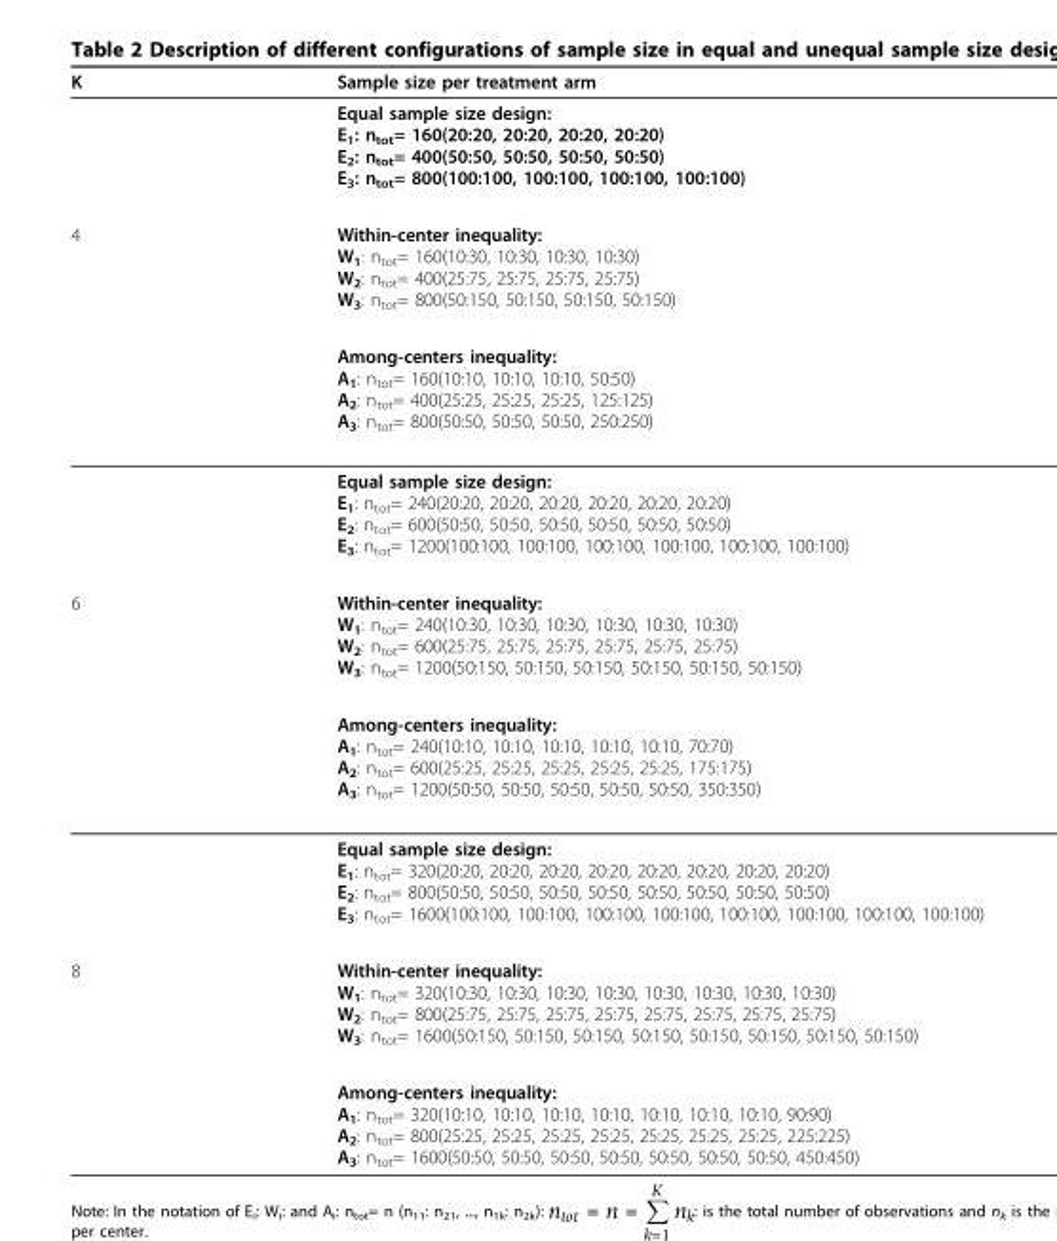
<table><thead><tr><td>K</td><td>Sample size per treatment arm</td></tr></thead><tbody><tr><td></td><td>Equal sample size design: E<sub>1</sub>: n<sub>tot</sub>= 160(20:20, 20:20, 20:20, 20:20) E<sub>2</sub>: n<sub>tot</sub>= 400(50:50, 50:50, 50:50, 50:50) E<sub>3</sub>: n<sub>tot</sub>= 800(100:100, 100:100, 100:100, 100:100)</td></tr><tr><td rowspan="3">4</td><td>Within-center inequality: W<sub>1</sub>: n<sub>tot</sub>= 160(10:30, 10:30, 10:30, 10:30) W<sub>2</sub>: n<sub>tot</sub>= 400(25:75, 25:75, 25:75, 25:75) W<sub>3</sub>: n<sub>tot</sub>= 800(50:150, 50:150, 50:150, 50:150)</td></tr><tr><td>Among-centers inequality: A<sub>1</sub>: n<sub>tot</sub>= 160(10:10, 10:10, 10:10, 50:50) A<sub>2</sub>: n<sub>tot</sub>= 400(25:25, 25:25, 25:25, 125:125) A<sub>3</sub>: n<sub>tot</sub>= 800(50:50, 50:50, 50:50, 250:250)</td></tr><tr><td>Equal sample size design: E<sub>1</sub>: n<sub>tot</sub>= 240(20:20, 20:20, 20:20, 20:20, 20:20, 20:20) E<sub>2</sub>: n<sub>tot</sub>= 600(50:50, 50:50, 50:50, 50:50, 50:50, 50:50) E<sub>3</sub>: n<sub>tot</sub>= 1200(100:100, 100:100, 100:100, 100:100, 100:100, 100:100)</td></tr><tr><td rowspan="3">6</td><td>Within-center inequality: W<sub>1</sub>: n<sub>tot</sub>= 240(10:30, 10:30, 10:30, 10:30, 10:30, 10:30) W<sub>2</sub>: n<sub>tot</sub>= 600(25:75, 25:75, 25:75, 25:75, 25:75, 25:75) W<sub>3</sub>: n<sub>tot</sub>= 1200(50:150, 50:150, 50:150, 50:150, 50:150, 50:150)</td></tr><tr><td>Among-centers inequality: A<sub>1</sub>: n<sub>tot</sub>= 240(10:10, 10:10, 10:10, 10:10, 10:10, 70:70) A<sub>2</sub>: n<sub>tot</sub>= 600(25:25, 25:25, 25:25, 25:25, 25:25, 175:175) A<sub>3</sub>: n<sub>tot</sub>= 1200(50:50, 50:50, 50:50, 50:50, 50:50, 350:350)</td></tr><tr><td>Equal sample size design: E<sub>1</sub>: n<sub>tot</sub>= 320(20:20, 20:20, 20:20, 20:20, 20:20, 20:20, 20:20, 20:20) E<sub>2</sub>: n<sub>tot</sub>= 800(50:50, 50:50, 50:50, 50:50, 50:50, 50:50, 50:50, 50:50) E<sub>3</sub>: n<sub>tot</sub>= 1600(100:100, 100:100, 100:100, 100:100, 100:100, 100:100, 100:100, 100:100)</td></tr><tr><td rowspan="2">8</td><td>Within-center inequality: W<sub>1</sub>: n<sub>tot</sub>= 320(10:30, 10:30, 10:30, 10:30, 10:30, 10:30, 10:30, 10:30) W<sub>2</sub>: n<sub>tot</sub>= 800(25:75, 25:75, 25:75, 25:75, 25:75, 25:75, 25:75, 25:75) W<sub>3</sub>: n<sub>tot</sub>= 1600(50:150, 50:150, 50:150, 50:150, 50:150, 50:150, 50:150, 50:150)</td></tr><tr><td>Among-centers inequality: A<sub>1</sub>: n<sub>tot</sub>= 320(10:10, 10:10, 10:10, 10:10, 10:10, 10:10, 10:10, 90:90) A<sub>2</sub>: n<sub>tot</sub>= 800(25:25, 25:25, 25:25, 25:25, 25:25, 25:25, 25:25, 225:225) A<sub>3</sub>: n<sub>tot</sub>= 1600(50:50, 50:50, 50:50, 50:50, 50:50, 50:50, 50:50, 450:450)</td></tr></tbody></table>